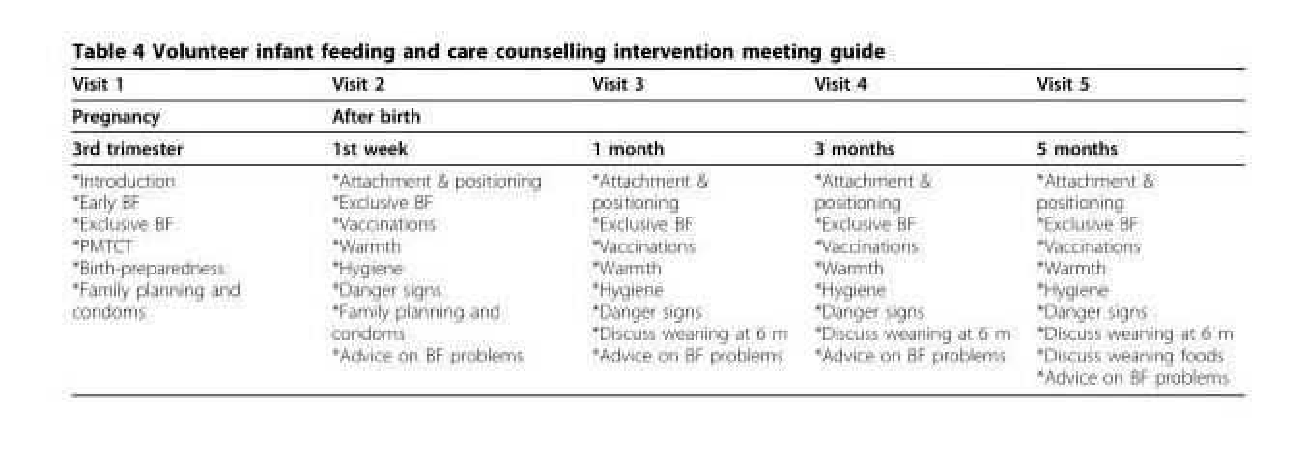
<table><thead><tr><td>Visit 1</td><td>Visit 2</td><td>Visit 3</td><td>Visit 4</td><td>Visit 5</td></tr></thead><tbody><tr><td>Pregnancy</td><td colspan="4">After birth</td></tr><tr><td>3rd trimester</td><td>1st week</td><td>1 month</td><td>3 months</td><td>5 months</td></tr><tr><td>*Introduction *Early BF *Exclusive BF *PMTCT *Birth-preparedness *Family planning and condoms</td><td>*Attachment &amp; positioning *Exclusive BF *Vaccinations *Warmth *Hygiene *Danger signs *Family planning and condoms *Advice on BF problems</td><td>*Attachment &amp; positioning *Exclusive BF *Vaccinations *Warmth *Hygiene *Danger signs *Discuss weaning at 6 m *Advice on BF problems</td><td>*Attachment &amp; positioning *Exclusive BF *Vaccinations *Warmth *Hygiene *Danger signs *Discuss weaning at 6 m *Advice on BF problems</td><td>*Attachment &amp; positioning *Exclusive BF *Vaccinations *Warmth *Hygiene *Danger signs *Discuss weaning at 6 m *Discuss weaning foods *Advice on BF problems</td></tr></tbody></table>